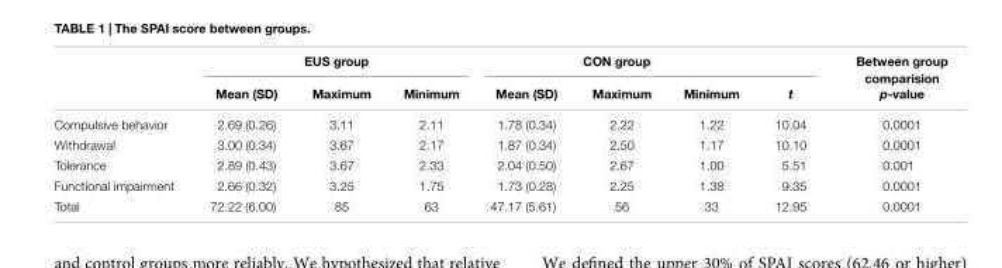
<table><thead><tr><td rowspan="2"></td><td colspan="3">EUS group</td><td colspan="4">CON group</td><td rowspan="2">Between group comparision p-value</td></tr><tr><td>Mean (SD)</td><td>Maximum</td><td>Minimum</td><td>Mean (SD)</td><td>Maximum</td><td>Minimum</td><td>t</td></tr></thead><tbody><tr><td>Compulsive behavior</td><td>2.69 (0.26)</td><td>3.11</td><td>2.11</td><td>1.78 (0.34)</td><td>2.22</td><td>1.22</td><td>10.04</td><td>0.0001</td></tr><tr><td>Withdrawal</td><td>3.00 (0.34)</td><td>3.67</td><td>2.17</td><td>1.87 (0.34)</td><td>2.50</td><td>1.17</td><td>10.10</td><td>0.0001</td></tr><tr><td>Tolerance</td><td>2.89 (0.43)</td><td>3.67</td><td>2.33</td><td>2.04 (0.50)</td><td>2.67</td><td>1.00</td><td>5.51</td><td>0.001</td></tr><tr><td>Functional impairment</td><td>2.66 (0.32)</td><td>3.25</td><td>1.75</td><td>1.73 (0.28)</td><td>2.25</td><td>1.38</td><td>9.35</td><td>0.0001</td></tr><tr><td>Total</td><td>72.22 (6.00)</td><td>85</td><td>63</td><td>47.17 (5.61)</td><td>56</td><td>33</td><td>12.95</td><td>0.0001</td></tr></tbody></table>